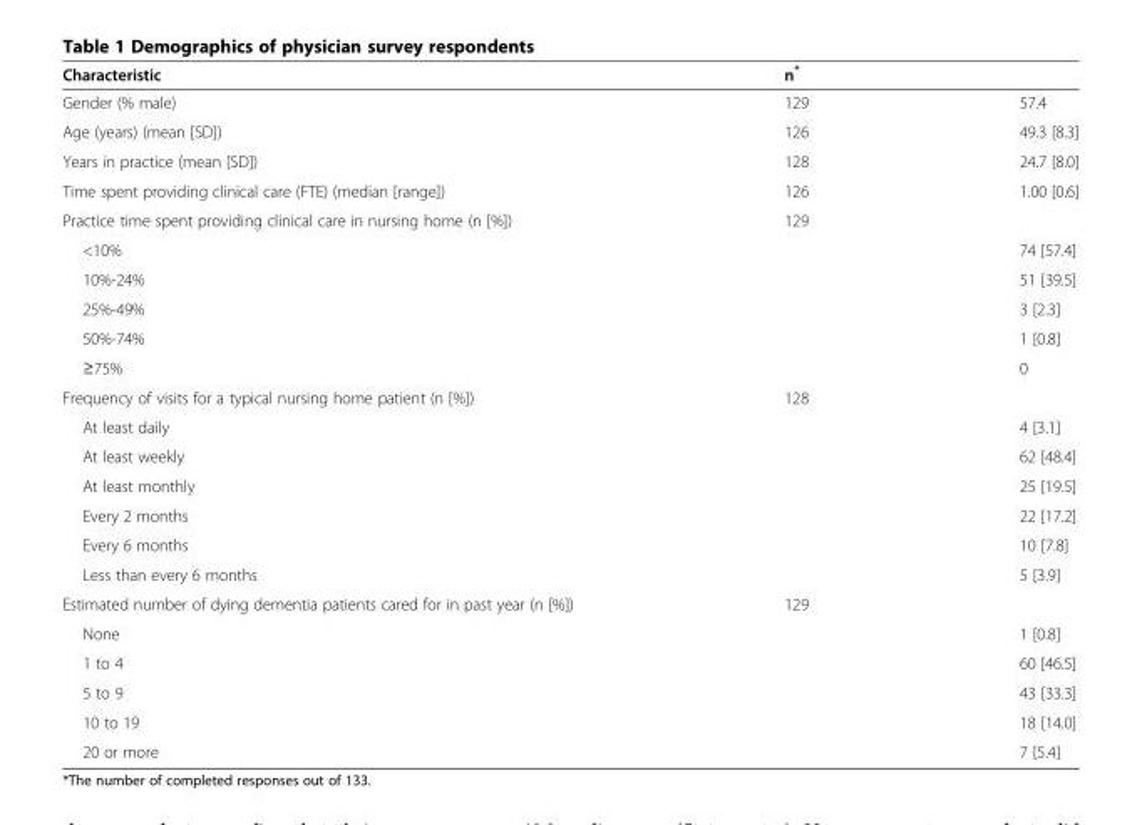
<table><thead><tr><td>Characteristic</td><td>n*</td><td></td></tr></thead><tbody><tr><td>Gender (% male)</td><td>129</td><td>57.4</td></tr><tr><td>Age (years) (mean [SD])</td><td>126</td><td>49.3 [8.3]</td></tr><tr><td>Years in practice (mean [SD])</td><td>128</td><td>24.7 [8.0]</td></tr><tr><td>Time spent providing clinical care (FTE) (median [range])</td><td>126</td><td>1.00 [0.6]</td></tr><tr><td>Practice time spent providing clinical care in nursing home (n [%])</td><td>129</td><td></td></tr><tr><td>&lt;10%</td><td></td><td>74 [57.4]</td></tr><tr><td>10%-24%</td><td></td><td>51 [39.5]</td></tr><tr><td>25%-49%</td><td></td><td>3 [2.3]</td></tr><tr><td>50%-74%</td><td></td><td>1 [0.8]</td></tr><tr><td>≥75%</td><td></td><td>0</td></tr><tr><td>Frequency of visits for a typical nursing home patient (n [%])</td><td>128</td><td></td></tr><tr><td>At least daily</td><td></td><td>4 [3.1]</td></tr><tr><td>At least weekly</td><td></td><td>62 [48.4]</td></tr><tr><td>At least monthly</td><td></td><td>25 [19.5]</td></tr><tr><td>Every 2 months</td><td></td><td>22 [17.2]</td></tr><tr><td>Every 6 months</td><td></td><td>10 [7.8]</td></tr><tr><td>Less than every 6 months</td><td></td><td>5 [3.9]</td></tr><tr><td>Estimated number of dying dementia patients cared for in past year (n [%])</td><td>129</td><td></td></tr><tr><td>None</td><td></td><td>1 [0.8]</td></tr><tr><td>1 to 4</td><td></td><td>60 [46.5]</td></tr><tr><td>5 to 9</td><td></td><td>43 [33.3]</td></tr><tr><td>10 to 19</td><td></td><td>18 [14.0]</td></tr><tr><td>20 or more</td><td></td><td>7 [5.4]</td></tr></tbody></table>